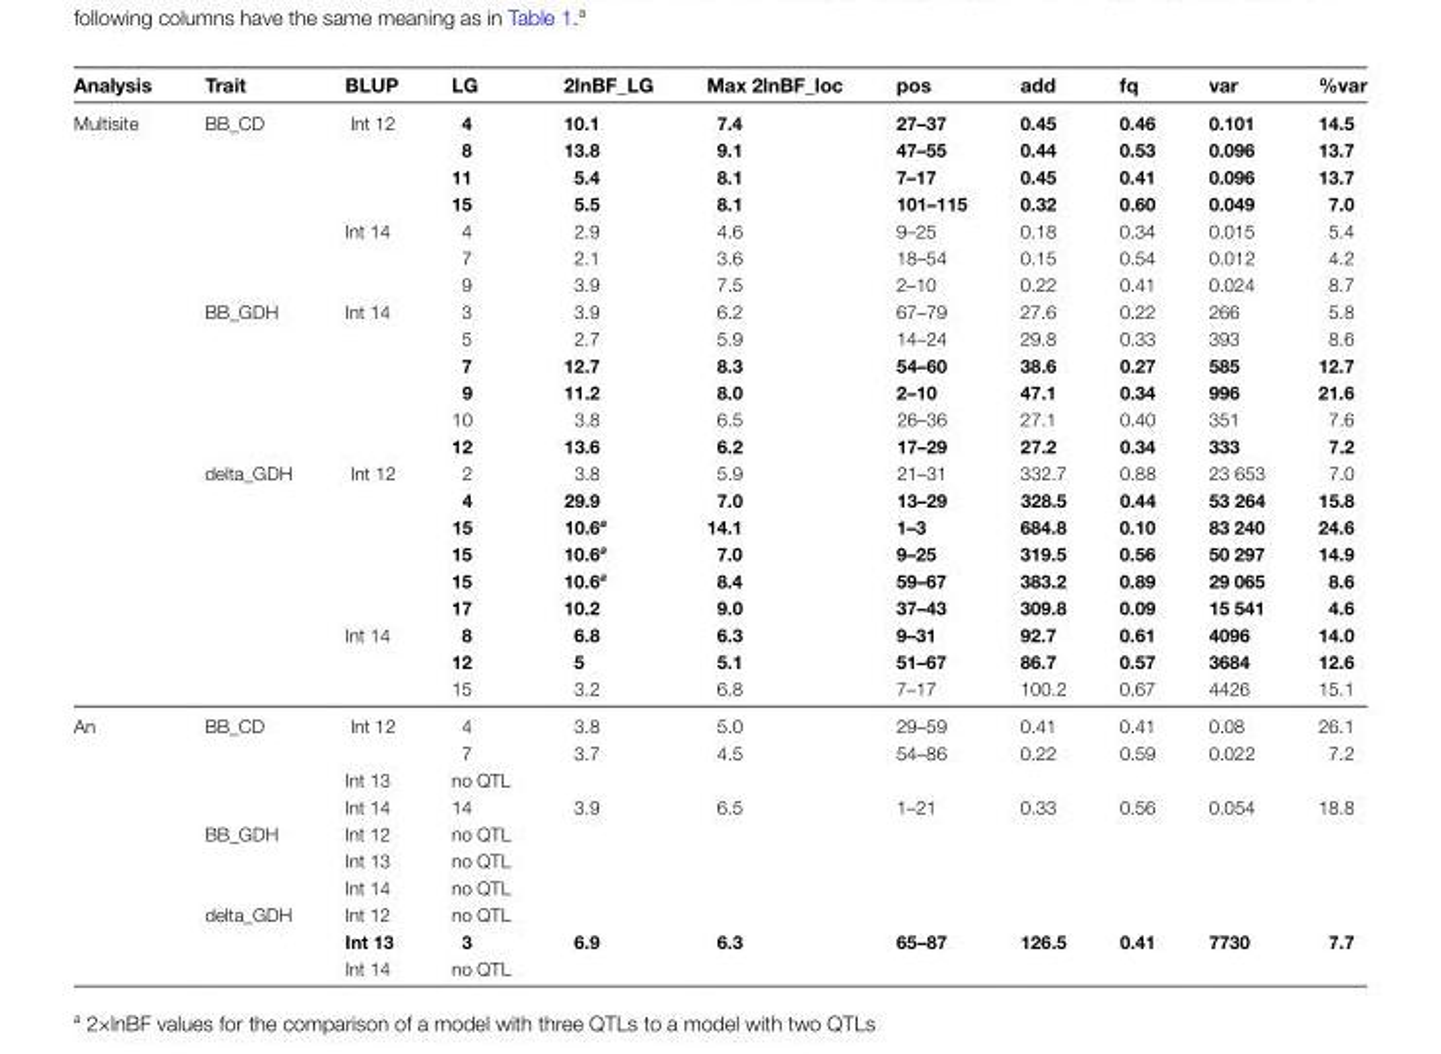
<table><thead><tr><td>Analysis</td><td>Trait</td><td>BLUP</td><td>LG</td><td>2lnBF_LG</td><td>Max 2lnBF_loc</td><td>pos</td><td>add</td><td>fq</td><td>var</td><td>%var</td></tr></thead><tbody><tr><td rowspan="22">Multisite</td><td rowspan="7">BB_CD</td><td rowspan="4">Int 12</td><td>4</td><td>10.1</td><td>7.4</td><td>27–37</td><td>0.45</td><td>0.46</td><td>0.101</td><td>14.5</td></tr><tr><td>8</td><td>13.8</td><td>9.1</td><td>47–55</td><td>0.44</td><td>0.53</td><td>0.096</td><td>13.7</td></tr><tr><td>11</td><td>5.4</td><td>8.1</td><td>7–17</td><td>0.45</td><td>0.41</td><td>0.096</td><td>13.7</td></tr><tr><td>15</td><td>5.5</td><td>8.1</td><td>101–115</td><td>0.32</td><td>0.60</td><td>0.049</td><td>7.0</td></tr><tr><td rowspan="3">Int 14</td><td>4</td><td>2.9</td><td>4.6</td><td>9–25</td><td>0.18</td><td>0.34</td><td>0.015</td><td>5.4</td></tr><tr><td>7</td><td>2.1</td><td>3.6</td><td>18–54</td><td>0.15</td><td>0.54</td><td>0.012</td><td>4.2</td></tr><tr><td>9</td><td>3.9</td><td>7.5</td><td>2–10</td><td>0.22</td><td>0.41</td><td>0.024</td><td>8.7</td></tr><tr><td rowspan="6">BB_GDH</td><td rowspan="6">Int 14</td><td>3</td><td>3.9</td><td>6.2</td><td>67–79</td><td>27.6</td><td>0.22</td><td>266</td><td>5.8</td></tr><tr><td>5</td><td>2.7</td><td>5.9</td><td>14–24</td><td>29.8</td><td>0.33</td><td>393</td><td>8.6</td></tr><tr><td>7</td><td>12.7</td><td>8.3</td><td>54–60</td><td>38.6</td><td>0.27</td><td>585</td><td>12.7</td></tr><tr><td>9</td><td>11.2</td><td>8.0</td><td>2–10</td><td>47.1</td><td>0.34</td><td>996</td><td>21.6</td></tr><tr><td>10</td><td>3.8</td><td>6.5</td><td>26–36</td><td>27.1</td><td>0.40</td><td>351</td><td>7.6</td></tr><tr><td>12</td><td>13.6</td><td>6.2</td><td>17–29</td><td>27.2</td><td>0.34</td><td>333</td><td>7.2</td></tr><tr><td rowspan="9">delta_GDH</td><td rowspan="6">Int 12</td><td>2</td><td>3.8</td><td>5.9</td><td>21–31</td><td>332.7</td><td>0.88</td><td>23 653</td><td>7.0</td></tr><tr><td>4</td><td>29.9</td><td>7.0</td><td>13–29</td><td>328.5</td><td>0.44</td><td>53 264</td><td>15.8</td></tr><tr><td>15</td><td>10.6<sup>a</sup></td><td>14.1</td><td>1–3</td><td>684.8</td><td>0.10</td><td>83 240</td><td>24.6</td></tr><tr><td>15</td><td>10.6<sup>a</sup></td><td>7.0</td><td>9–25</td><td>319.5</td><td>0.56</td><td>50 297</td><td>14.9</td></tr><tr><td>15</td><td>10.6<sup>a</sup></td><td>8.4</td><td>59–67</td><td>383.2</td><td>0.89</td><td>29 065</td><td>8.6</td></tr><tr><td>17</td><td>10.2</td><td>9.0</td><td>37–43</td><td>309.8</td><td>0.09</td><td>15 541</td><td>4.6</td></tr><tr><td rowspan="3">Int 14</td><td>8</td><td>6.8</td><td>6.3</td><td>9–31</td><td>92.7</td><td>0.61</td><td>4096</td><td>14.0</td></tr><tr><td>12</td><td>5</td><td>5.1</td><td>51–67</td><td>86.7</td><td>0.57</td><td>3684</td><td>12.6</td></tr><tr><td>15</td><td>3.2</td><td>6.8</td><td>7–17</td><td>100.2</td><td>0.67</td><td>4426</td><td>15.1</td></tr><tr><td rowspan="10">An</td><td rowspan="4">BB_CD</td><td rowspan="2">Int 12</td><td>4</td><td>3.8</td><td>5.0</td><td>29–59</td><td>0.41</td><td>0.41</td><td>0.08</td><td>26.1</td></tr><tr><td>7</td><td>3.7</td><td>4.5</td><td>54–86</td><td>0.22</td><td>0.59</td><td>0.022</td><td>7.2</td></tr><tr><td>Int 13</td><td>no QTL</td><td></td><td></td><td></td><td></td><td></td><td></td><td></td></tr><tr><td>Int 14</td><td>14</td><td>3.9</td><td>6.5</td><td>1–21</td><td>0.33</td><td>0.56</td><td>0.054</td><td>18.8</td></tr><tr><td rowspan="3">BB_GDH</td><td>Int 12</td><td>no QTL</td><td></td><td></td><td></td><td></td><td></td><td></td><td></td></tr><tr><td>Int 13</td><td>no QTL</td><td></td><td></td><td></td><td></td><td></td><td></td><td></td></tr><tr><td>Int 14</td><td>no QTL</td><td></td><td></td><td></td><td></td><td></td><td></td><td></td></tr><tr><td rowspan="3">delta_GDH</td><td>Int 12</td><td>no QTL</td><td></td><td></td><td></td><td></td><td></td><td></td><td></td></tr><tr><td>Int 13</td><td>3</td><td>6.9</td><td>6.3</td><td>65–87</td><td>126.5</td><td>0.41</td><td>7730</td><td>7.7</td></tr><tr><td>Int 14</td><td>no QTL</td><td></td><td></td><td></td><td></td><td></td><td></td><td></td></tr></tbody></table>